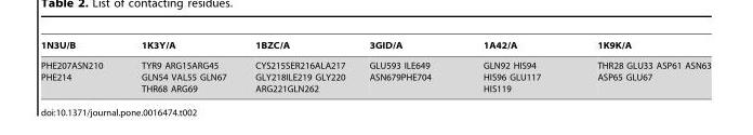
<table><thead><tr><td>1N3U/B</td><td>1K3Y/A</td><td>1BZC/A</td><td>3GID/A</td><td>1A42/A</td><td>1K9K/A</td></tr></thead><tbody><tr><td>PHE207ASN210 PHE214</td><td>TYR9 ARG15ARG45 GLN54 VAL55 GLN67 THR68 ARG69</td><td>CYS215SER216ALA217 GLY218ILE219 GLY220 ARG221GLN262</td><td>GLU593 ILE649 ASN679PHE704</td><td>GLN92 HIS94 HIS96 GLU117 HIS119</td><td>THR28 GLU33 ASP61 ASN63 ASP65 GLU67</td></tr></tbody></table>